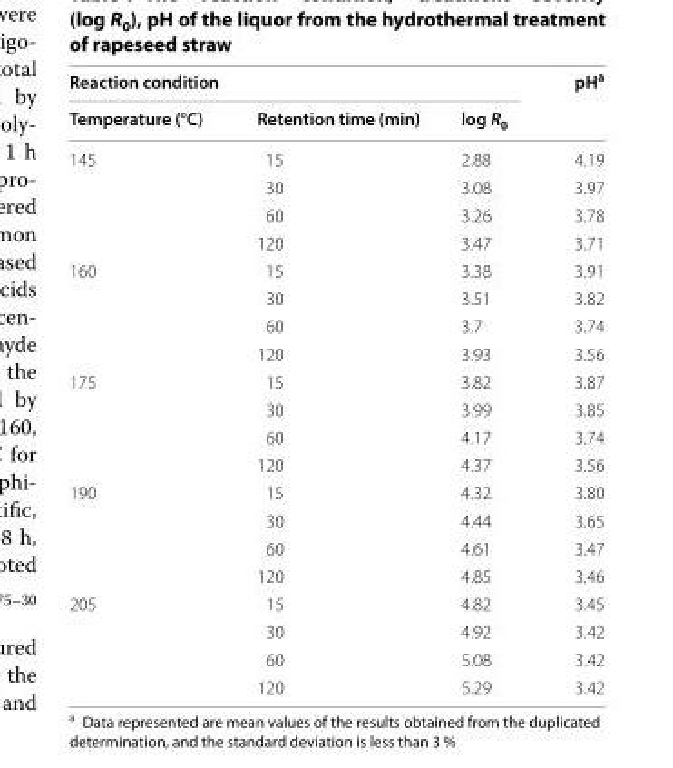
<table><thead><tr><td colspan="3">Reaction condition</td><td rowspan="2">pH<sup>a</sup></td></tr><tr><td>Temperature (°C)</td><td>Retention time (min)</td><td>log R<sub>0</sub></td></tr></thead><tbody><tr><td rowspan="4">145</td><td>15</td><td>2.88</td><td>4.19</td></tr><tr><td>30</td><td>3.08</td><td>3.97</td></tr><tr><td>60</td><td>3.26</td><td>3.78</td></tr><tr><td>120</td><td>3.47</td><td>3.71</td></tr><tr><td rowspan="4">160</td><td>15</td><td>3.38</td><td>3.91</td></tr><tr><td>30</td><td>3.51</td><td>3.82</td></tr><tr><td>60</td><td>3.7</td><td>3.74</td></tr><tr><td>120</td><td>3.93</td><td>3.56</td></tr><tr><td rowspan="4">175</td><td>15</td><td>3.82</td><td>3.87</td></tr><tr><td>30</td><td>3.99</td><td>3.85</td></tr><tr><td>60</td><td>4.17</td><td>3.74</td></tr><tr><td>120</td><td>4.37</td><td>3.56</td></tr><tr><td rowspan="4">190</td><td>15</td><td>4.32</td><td>3.80</td></tr><tr><td>30</td><td>4.44</td><td>3.65</td></tr><tr><td>60</td><td>4.61</td><td>3.47</td></tr><tr><td>120</td><td>4.85</td><td>3.46</td></tr><tr><td rowspan="4">205</td><td>15</td><td>4.82</td><td>3.45</td></tr><tr><td>30</td><td>4.92</td><td>3.42</td></tr><tr><td>60</td><td>5.08</td><td>3.42</td></tr><tr><td>120</td><td>5.29</td><td>3.42</td></tr></tbody></table>